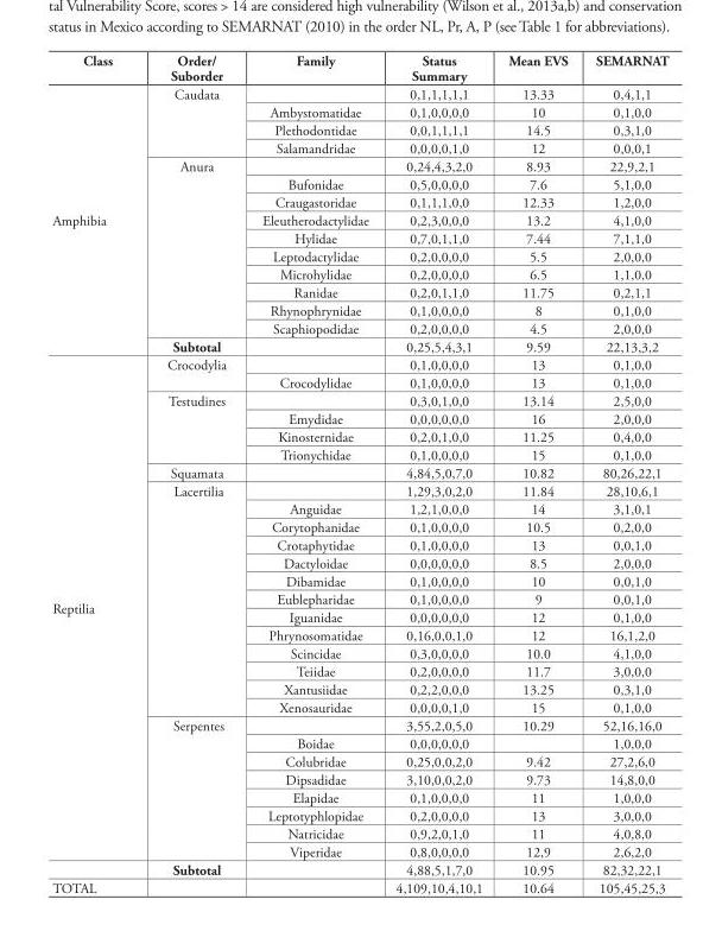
<table><thead><tr><td>Class</td><td>Order/ Suborder</td><td>Family</td><td>Status Summary</td><td>Mean EVS</td><td>SEMARNAT</td></tr></thead><tbody><tr><td rowspan="15">Amphibia</td><td rowspan="4">Caudata</td><td></td><td>0,1,1,1,1,1</td><td>13.33</td><td>0,4,1,1</td></tr><tr><td>Ambystomatidae</td><td>0,1,0,0,0,0</td><td>10</td><td>0,1,0,0</td></tr><tr><td>Plethodontidae</td><td>0,0,1,1,1,1</td><td>14.5</td><td>0,3,1,0</td></tr><tr><td>Salamandridae</td><td>0,0,0,0,1,0</td><td>12</td><td>0,0,0,1</td></tr><tr><td rowspan="10">Anura</td><td></td><td>0,24,4,3,2,0</td><td>8.93</td><td>22,9,2,1</td></tr><tr><td>Bufonidae</td><td>0,5,0,0,0,0</td><td>7.6</td><td>5,1,0,0</td></tr><tr><td>Craugastoridae</td><td>0,1,1,1,0,0</td><td>12.33</td><td>1,2,0,0</td></tr><tr><td>Eleutherodactylidae</td><td>0,2,3,0,0,0</td><td>13.2</td><td>4,1,0,0</td></tr><tr><td>Hylidae</td><td>0,7,0,1,1,0</td><td>7.44</td><td>7,1,1,0</td></tr><tr><td>Leptodactylidae</td><td>0,2,0,0,0,0</td><td>5.5</td><td>2,0,0,0</td></tr><tr><td>Microhylidae</td><td>0,2,0,0,0,0</td><td>6.5</td><td>1,1,0,0</td></tr><tr><td>Ranidae</td><td>0,2,0,1,1,0</td><td>11.75</td><td>0,2,1,1</td></tr><tr><td>Rhynophrynidae</td><td>0,1,0,0,0,0</td><td>8</td><td>0,1,0,0</td></tr><tr><td>Scaphiopodidae</td><td>0,2,0,0,0,0</td><td>4.5</td><td>2,0,0,0</td></tr><tr><td>Subtotal</td><td></td><td>0,25,5,4,3,1</td><td>9.59</td><td>22,13,3,2</td></tr><tr><td rowspan="29">Reptilia</td><td rowspan="2">Crocodylia</td><td></td><td>0,1,0,0,0,0</td><td>13</td><td>0,1,0,0</td></tr><tr><td>Crocodylidae</td><td>0,1,0,0,0,0</td><td>13</td><td>0,1,0,0</td></tr><tr><td rowspan="4">Testudines</td><td></td><td>0,3,0,1,0,0</td><td>13.14</td><td>2,5,0,0</td></tr><tr><td>Emydidae</td><td>0,0,0,0,0,0</td><td>16</td><td>2,0,0,0</td></tr><tr><td>Kinosternidae</td><td>0,2,0,1,0,0</td><td>11.25</td><td>0,4,0,0</td></tr><tr><td>Trionychidae</td><td>0,1,0,0,0,0</td><td>15</td><td>0,1,0,0</td></tr><tr><td>Squamata</td><td></td><td>4,84,5,0,7,0</td><td>10.82</td><td>80,26,22,1</td></tr><tr><td rowspan="13">Lacertilia</td><td></td><td>1,29,3,0,2,0</td><td>11.84</td><td>28,10,6,1</td></tr><tr><td>Anguidae</td><td>1,2,1,0,0,0</td><td>14</td><td>3,1,0,1</td></tr><tr><td>Corytophanidae</td><td>0,1,0,0,0,0</td><td>10.5</td><td>0,2,0,0</td></tr><tr><td>Crotaphytidae</td><td>0,1,0,0,0,0</td><td>13</td><td>0,0,1,0</td></tr><tr><td>Dactyloidae</td><td>0,0,0,0,0,0</td><td>8.5</td><td>2,0,0,0</td></tr><tr><td>Dibamidae</td><td>0,1,0,0,0,0</td><td>10</td><td>0,0,1,0</td></tr><tr><td>Eublepharidae</td><td>0,1,0,0,0,0</td><td>9</td><td>0,0,1,0</td></tr><tr><td>Iguanidae</td><td>0,0,0,0,0,0</td><td>12</td><td>0,1,0,0</td></tr><tr><td>Phrynosomatidae</td><td>0,16,0,0,1,0</td><td>12</td><td>16,1,2,0</td></tr><tr><td>Scincidae</td><td>0,3,0,0,0,0</td><td>10.0</td><td>4,1,0,0</td></tr><tr><td>Teiidae</td><td>0,2,0,0,0,0</td><td>11.7</td><td>3,0,0,0</td></tr><tr><td>Xantusiidae</td><td>0,2,2,0,0,0</td><td>13.25</td><td>0,3,1,0</td></tr><tr><td>Xenosauridae</td><td>0,0,0,0,1,0</td><td>15</td><td>0,1,0,0</td></tr><tr><td rowspan="8">Serpentes</td><td></td><td>3,55,2,0,5,0</td><td>10.29</td><td>52,16,16,0</td></tr><tr><td>Boidae</td><td>0,0,0,0,0,0</td><td></td><td>1,0,0,0</td></tr><tr><td>Colubridae</td><td>0,25,0,0,2,0</td><td>9.42</td><td>27,2,6,0</td></tr><tr><td>Dipsadidae</td><td>3,10,0,0,2,0</td><td>9.73</td><td>14,8,0,0</td></tr><tr><td>Elapidae</td><td>0,1,0,0,0,0</td><td>11</td><td>1,0,0,0</td></tr><tr><td>Leptotyphlopidae</td><td>0,2,0,0,0,0</td><td>13</td><td>3,0,0,0</td></tr><tr><td>Natricidae</td><td>0,9,2,0,1,0</td><td>11</td><td>4,0,8,0</td></tr><tr><td>Viperidae</td><td>0,8,0,0,0,0</td><td>12,9</td><td>2,6,2,0</td></tr><tr><td>Subtotal</td><td></td><td>4,88,5,1,7,0</td><td>10.95</td><td>82,32,22,1</td></tr><tr><td>TOTAL</td><td></td><td></td><td>4,109,10,4,10,1</td><td>10.64</td><td>105,45,25,3</td></tr></tbody></table>